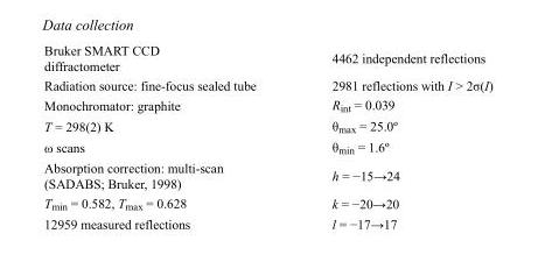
<table><tbody><tr><td>Bruker SMART CCD diffractometer</td><td>4462 independent reflections</td></tr><tr><td>Radiation source: fine-focus sealed tube</td><td>2981 reflections with I &gt; 2σ(I)</td></tr><tr><td>Monochromator: graphite</td><td>R<sub>int</sub> = 0.039</td></tr><tr><td>T = 298(2) K</td><td>θ<sub>max</sub> = 25.0º</td></tr><tr><td>ω scans</td><td>θ<sub>min</sub> = 1.6º</td></tr><tr><td>Absorption correction: multi-scan (SADABS; Bruker, 1998)</td><td>h = −15→24</td></tr><tr><td>T<sub>min</sub> = 0.582, T<sub>max</sub> = 0.628</td><td>k = −20→20</td></tr><tr><td>12959 measured reflections</td><td>l = −17→17</td></tr></tbody></table>